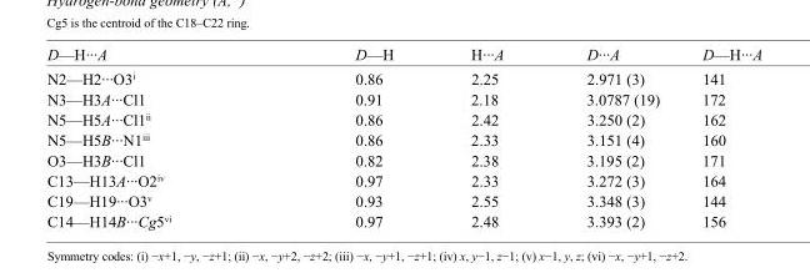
<table><tbody><tr><td>D—H···A</td><td>D—H</td><td>H···A</td><td>D···A</td><td>D—H···A</td></tr><tr><td>N2—H2···O3<sup>i</sup></td><td>0.86</td><td>2.25</td><td>2.971 (3)</td><td>141</td></tr><tr><td>N3—H3A···Cl1</td><td>0.91</td><td>2.18</td><td>3.0787 (19)</td><td>172</td></tr><tr><td>N5—H5A···Cl1<sup>ii</sup></td><td>0.86</td><td>2.42</td><td>3.250 (2)</td><td>162</td></tr><tr><td>N5—H5B···N1<sup>iii</sup></td><td>0.86</td><td>2.33</td><td>3.151 (4)</td><td>160</td></tr><tr><td>O3—H3B···Cl1</td><td>0.82</td><td>2.38</td><td>3.195 (2)</td><td>171</td></tr><tr><td>C13—H13A···O2<sup>iv</sup></td><td>0.97</td><td>2.33</td><td>3.272 (3)</td><td>164</td></tr><tr><td>C19—H19···O3<sup>v</sup></td><td>0.93</td><td>2.55</td><td>3.348 (3)</td><td>144</td></tr><tr><td>C14—H14B···Cg5<sup>vi</sup></td><td>0.97</td><td>2.48</td><td>3.393 (2)</td><td>156</td></tr></tbody></table>